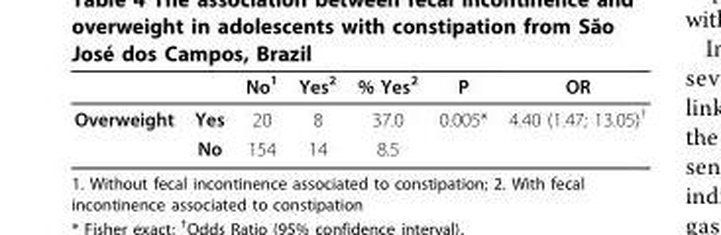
<table><thead><tr><td></td><td></td><td>No<sup>1</sup></td><td>Yes<sup>2</sup></td><td>% Yes<sup>2</sup></td><td>P</td><td>OR</td></tr></thead><tbody><tr><td rowspan="2">Overweight</td><td>Yes</td><td>20</td><td>8</td><td>37.0</td><td>0.005*</td><td>4.40 (1.47; 13.05)<sup>†</sup></td></tr><tr><td>No</td><td>154</td><td>14</td><td>8.5</td><td></td><td></td></tr></tbody></table>